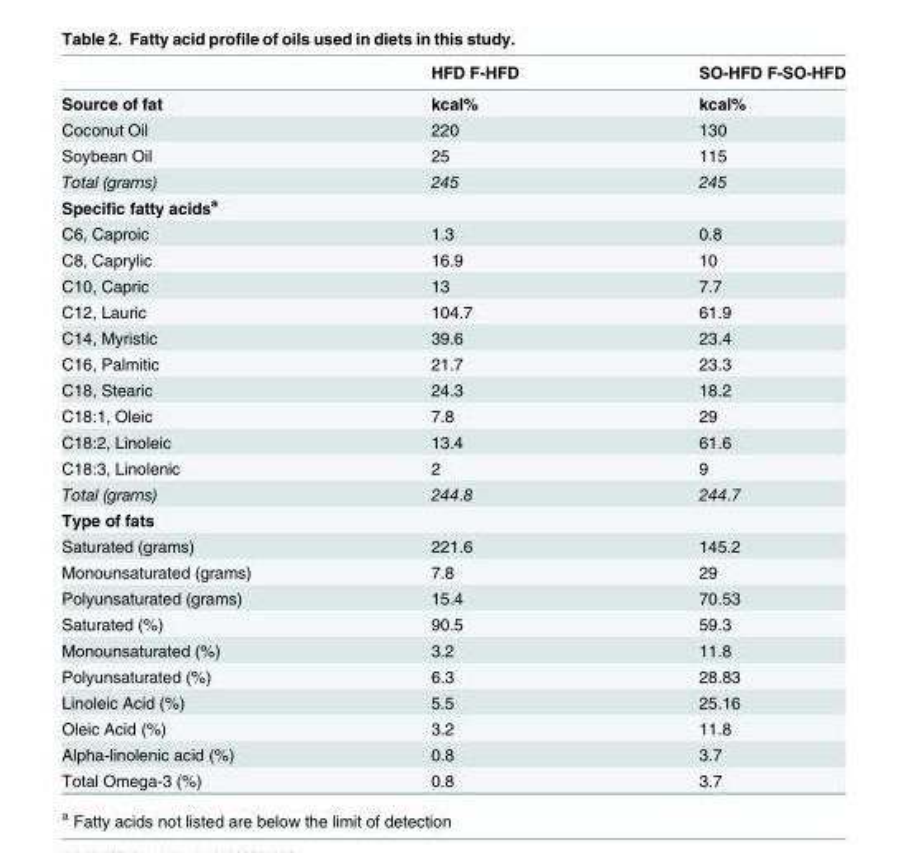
<table><thead><tr><td></td><td>HFD F-HFD</td><td>SO-HFD F-SO-HFD</td></tr></thead><tbody><tr><td>Source of fat</td><td>kcal%</td><td>kcal%</td></tr><tr><td>Coconut Oil</td><td>220</td><td>130</td></tr><tr><td>Soybean Oil</td><td>25</td><td>115</td></tr><tr><td>Total (grams)</td><td>245</td><td>245</td></tr><tr><td colspan="3">Specific fatty acids<sup>a</sup></td></tr><tr><td>C6, Caproic</td><td>1.3</td><td>0.8</td></tr><tr><td>C8, Caprylic</td><td>16.9</td><td>10</td></tr><tr><td>C10, Capric</td><td>13</td><td>7.7</td></tr><tr><td>C12, Lauric</td><td>104.7</td><td>61.9</td></tr><tr><td>C14, Myristic</td><td>39.6</td><td>23.4</td></tr><tr><td>C16, Palmitic</td><td>21.7</td><td>23.3</td></tr><tr><td>C18, Stearic</td><td>24.3</td><td>18.2</td></tr><tr><td>C18:1, Oleic</td><td>7.8</td><td>29</td></tr><tr><td>C18:2, Linoleic</td><td>13.4</td><td>61.6</td></tr><tr><td>C18:3, Linolenic</td><td>2</td><td>9</td></tr><tr><td>Total (grams)</td><td>244.8</td><td>244.7</td></tr><tr><td colspan="3">Type of fats</td></tr><tr><td>Saturated (grams)</td><td>221.6</td><td>145.2</td></tr><tr><td>Monounsaturated (grams)</td><td>7.8</td><td>29</td></tr><tr><td>Polyunsaturated (grams)</td><td>15.4</td><td>70.53</td></tr><tr><td>Saturated (%)</td><td>90.5</td><td>59.3</td></tr><tr><td>Monounsaturated (%)</td><td>3.2</td><td>11.8</td></tr><tr><td>Polyunsaturated (%)</td><td>6.3</td><td>28.83</td></tr><tr><td>Linoleic Acid (%)</td><td>5.5</td><td>25.16</td></tr><tr><td>Oleic Acid (%)</td><td>3.2</td><td>11.8</td></tr><tr><td>Alpha-linolenic acid (%)</td><td>0.8</td><td>3.7</td></tr><tr><td>Total Omega-3 (%)</td><td>0.8</td><td>3.7</td></tr></tbody></table>